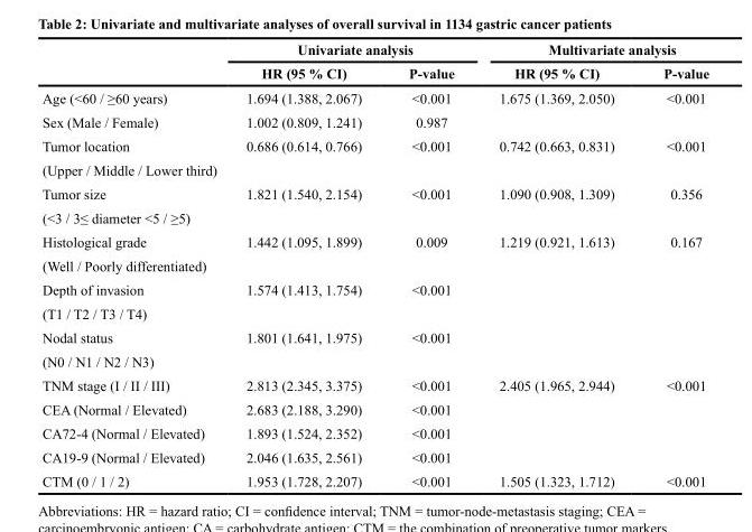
<table><thead><tr><td rowspan="2"></td><td colspan="2">Univariate analysis</td><td colspan="2">Multivariate analysis</td></tr><tr><td>HR (95 % CI)</td><td>P-value</td><td>HR (95 % CI)</td><td>P-value</td></tr></thead><tbody><tr><td>Age (&lt;60 / ≥60 years)</td><td>1.694 (1.388, 2.067)</td><td>&lt;0.001</td><td>1.675 (1.369, 2.050)</td><td>&lt;0.001</td></tr><tr><td>Sex (Male / Female)</td><td>1.002 (0.809, 1.241)</td><td>0.987</td><td></td><td></td></tr><tr><td>Tumor location</td><td>0.686 (0.614, 0.766)</td><td>&lt;0.001</td><td>0.742 (0.663, 0.831)</td><td>&lt;0.001</td></tr><tr><td colspan="5">(Upper / Middle / Lower third)</td></tr><tr><td>Tumor size</td><td>1.821 (1.540, 2.154)</td><td>&lt;0.001</td><td>1.090 (0.908, 1.309)</td><td>0.356</td></tr><tr><td colspan="5">(&lt;3 / 3≤ diameter &lt;5 / ≥5)</td></tr><tr><td>Histological grade</td><td>1.442 (1.095, 1.899)</td><td>0.009</td><td>1.219 (0.921, 1.613)</td><td>0.167</td></tr><tr><td colspan="5">(Well / Poorly differentiated)</td></tr><tr><td>Depth of invasion</td><td>1.574 (1.413, 1.754)</td><td>&lt;0.001</td><td></td><td></td></tr><tr><td colspan="5">(T1 / T2 / T3 / T4)</td></tr><tr><td>Nodal status</td><td>1.801 (1.641, 1.975)</td><td>&lt;0.001</td><td></td><td></td></tr><tr><td colspan="5">(N0 / N1 / N2 / N3)</td></tr><tr><td>TNM stage (I / II / III)</td><td>2.813 (2.345, 3.375)</td><td>&lt;0.001</td><td>2.405 (1.965, 2.944)</td><td>&lt;0.001</td></tr><tr><td>CEA (Normal / Elevated)</td><td>2.683 (2.188, 3.290)</td><td>&lt;0.001</td><td></td><td></td></tr><tr><td>CA72-4 (Normal / Elevated)</td><td>1.893 (1.524, 2.352)</td><td>&lt;0.001</td><td></td><td></td></tr><tr><td>CA19-9 (Normal / Elevated)</td><td>2.046 (1.635, 2.561)</td><td>&lt;0.001</td><td></td><td></td></tr><tr><td>CTM (0 / 1 / 2)</td><td>1.953 (1.728, 2.207)</td><td>&lt;0.001</td><td>1.505 (1.323, 1.712)</td><td>&lt;0.001</td></tr></tbody></table>